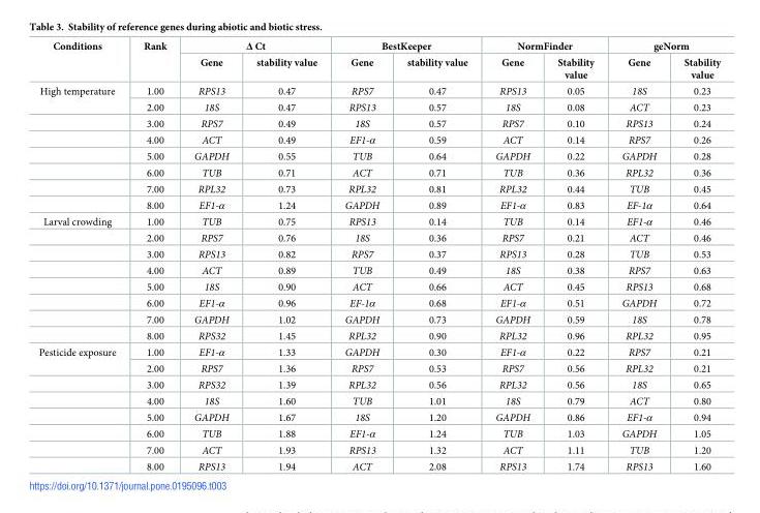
<table><thead><tr><td rowspan="2">Conditions</td><td rowspan="2">Rank</td><td colspan="2">Δ Ct</td><td colspan="2">BestKeeper</td><td colspan="2">NormFinder</td><td colspan="2">geNorm</td></tr><tr><td>Gene</td><td>stability value</td><td>Gene</td><td>stability value</td><td>Gene</td><td>Stability value</td><td>Gene</td><td>Stability value</td></tr></thead><tbody><tr><td rowspan="8">High temperature</td><td>1.00</td><td>RPS13</td><td>0.47</td><td>RPS7</td><td>0.47</td><td>RPS13</td><td>0.05</td><td>18S</td><td>0.23</td></tr><tr><td>2.00</td><td>18S</td><td>0.47</td><td>RPS13</td><td>0.57</td><td>18S</td><td>0.08</td><td>ACT</td><td>0.23</td></tr><tr><td>3.00</td><td>RPS7</td><td>0.49</td><td>18S</td><td>0.57</td><td>RPS7</td><td>0.10</td><td>RPS13</td><td>0.24</td></tr><tr><td>4.00</td><td>ACT</td><td>0.49</td><td>EF1-α</td><td>0.59</td><td>ACT</td><td>0.14</td><td>RPS7</td><td>0.26</td></tr><tr><td>5.00</td><td>GAPDH</td><td>0.55</td><td>TUB</td><td>0.64</td><td>GAPDH</td><td>0.22</td><td>GAPDH</td><td>0.28</td></tr><tr><td>6.00</td><td>TUB</td><td>0.71</td><td>ACT</td><td>0.71</td><td>TUB</td><td>0.36</td><td>RPL32</td><td>0.36</td></tr><tr><td>7.00</td><td>RPL32</td><td>0.73</td><td>RPL32</td><td>0.81</td><td>RPL32</td><td>0.44</td><td>TUB</td><td>0.45</td></tr><tr><td>8.00</td><td>EF1-α</td><td>1.24</td><td>GAPDH</td><td>0.89</td><td>EF1-α</td><td>0.83</td><td>EF-1α</td><td>0.64</td></tr><tr><td rowspan="8">Larval crowding</td><td>1.00</td><td>TUB</td><td>0.75</td><td>RPS13</td><td>0.14</td><td>TUB</td><td>0.14</td><td>EF1-α</td><td>0.46</td></tr><tr><td>2.00</td><td>RPS7</td><td>0.76</td><td>18S</td><td>0.36</td><td>RPS7</td><td>0.21</td><td>ACT</td><td>0.46</td></tr><tr><td>3.00</td><td>RPS13</td><td>0.82</td><td>RPS7</td><td>0.37</td><td>RPS13</td><td>0.28</td><td>TUB</td><td>0.53</td></tr><tr><td>4.00</td><td>ACT</td><td>0.89</td><td>TUB</td><td>0.49</td><td>18S</td><td>0.38</td><td>RPS7</td><td>0.63</td></tr><tr><td>5.00</td><td>18S</td><td>0.90</td><td>ACT</td><td>0.66</td><td>ACT</td><td>0.45</td><td>RPS13</td><td>0.68</td></tr><tr><td>6.00</td><td>EF1-α</td><td>0.96</td><td>EF-1α</td><td>0.68</td><td>EF1-α</td><td>0.51</td><td>GAPDH</td><td>0.72</td></tr><tr><td>7.00</td><td>GAPDH</td><td>1.02</td><td>GAPDH</td><td>0.73</td><td>GAPDH</td><td>0.59</td><td>18S</td><td>0.78</td></tr><tr><td>8.00</td><td>RPS32</td><td>1.45</td><td>RPL32</td><td>0.90</td><td>RPL32</td><td>0.96</td><td>RPL32</td><td>0.95</td></tr><tr><td rowspan="8">Pesticide exposure</td><td>1.00</td><td>EF1-α</td><td>1.33</td><td>GAPDH</td><td>0.30</td><td>EF1-α</td><td>0.22</td><td>RPS7</td><td>0.21</td></tr><tr><td>2.00</td><td>RPS7</td><td>1.36</td><td>RPS7</td><td>0.53</td><td>RPS7</td><td>0.56</td><td>RPL32</td><td>0.21</td></tr><tr><td>3.00</td><td>RPS32</td><td>1.39</td><td>RPL32</td><td>0.56</td><td>RPL32</td><td>0.56</td><td>18S</td><td>0.65</td></tr><tr><td>4.00</td><td>18S</td><td>1.60</td><td>TUB</td><td>1.01</td><td>18S</td><td>0.79</td><td>ACT</td><td>0.80</td></tr><tr><td>5.00</td><td>GAPDH</td><td>1.67</td><td>18S</td><td>1.20</td><td>GAPDH</td><td>0.86</td><td>EF1-α</td><td>0.94</td></tr><tr><td>6.00</td><td>TUB</td><td>1.88</td><td>EF1-α</td><td>1.24</td><td>TUB</td><td>1.03</td><td>GAPDH</td><td>1.05</td></tr><tr><td>7.00</td><td>ACT</td><td>1.93</td><td>RPS13</td><td>1.32</td><td>ACT</td><td>1.11</td><td>TUB</td><td>1.20</td></tr><tr><td>8.00</td><td>RPS13</td><td>1.94</td><td>ACT</td><td>2.08</td><td>RPS13</td><td>1.74</td><td>RPS13</td><td>1.60</td></tr></tbody></table>